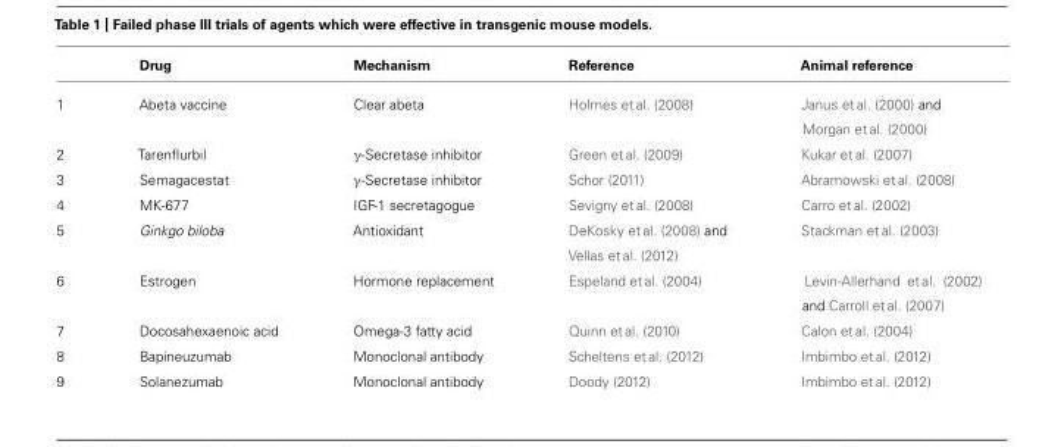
<table><thead><tr><td></td><td>Drug</td><td>Mechanism</td><td>Reference</td><td>Animal reference</td></tr></thead><tbody><tr><td>1</td><td>Abeta vaccine</td><td>Clear abeta</td><td>Holmes et al. (2008)</td><td>Janus et al. (2000) and Morgan et al. (2000)</td></tr><tr><td>2</td><td>Tarenflurbil</td><td>γ-Secretase inhibitor</td><td>Green et al. (2009)</td><td>Kukar et al. (2007)</td></tr><tr><td>3</td><td>Semagacestat</td><td>γ-Secretase inhibitor</td><td>Schor (2011)</td><td>Abramowski et al. (2008)</td></tr><tr><td>4</td><td>MK-677</td><td>IGF-1 secretagogue</td><td>Sevigny et al. (2008)</td><td>Carro et al. (2002)</td></tr><tr><td>5</td><td>Ginkgo biloba</td><td>Antioxidant</td><td>DeKosky et al. (2008) and Vellas et al. (2012)</td><td>Stackman et al. (2003)</td></tr><tr><td>6</td><td>Estrogen</td><td>Hormone replacement</td><td>Espeland et al. (2004)</td><td>Levin-Allerhand et al. (2002) and Carroll et al. (2007)</td></tr><tr><td>7</td><td>Docosahexaenoic acid</td><td>Omega-3 fatty acid</td><td>Quinn et al. (2010)</td><td>Calon et al. (2004)</td></tr><tr><td>8</td><td>Bapineuzumab</td><td>Monoclonal antibody</td><td>Scheltens et al. (2012)</td><td>Imbimbo et al. (2012)</td></tr><tr><td>9</td><td>Solanezumab</td><td>Monoclonal antibody</td><td>Doody (2012)</td><td>Imbimbo et al. (2012)</td></tr></tbody></table>